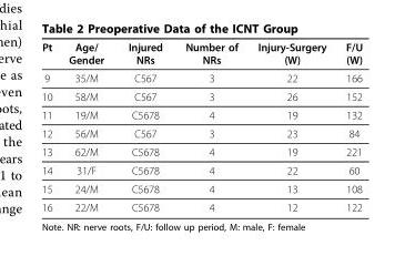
<table><thead><tr><td>Pt</td><td>Age/ Gender</td><td>Injured NRs</td><td>Number of NRs</td><td>Injury-Surgery (W)</td><td>F/U (W)</td></tr></thead><tbody><tr><td>9</td><td>35/M</td><td>C567</td><td>3</td><td>22</td><td>166</td></tr><tr><td>10</td><td>58/M</td><td>C567</td><td>3</td><td>26</td><td>152</td></tr><tr><td>11</td><td>19/M</td><td>C5678</td><td>4</td><td>19</td><td>132</td></tr><tr><td>12</td><td>56/M</td><td>C567</td><td>3</td><td>23</td><td>84</td></tr><tr><td>13</td><td>62/M</td><td>C5678</td><td>4</td><td>19</td><td>221</td></tr><tr><td>14</td><td>31/F</td><td>C5678</td><td>4</td><td>22</td><td>60</td></tr><tr><td>15</td><td>24/M</td><td>C5678</td><td>4</td><td>13</td><td>108</td></tr><tr><td>16</td><td>22/M</td><td>C5678</td><td>4</td><td>12</td><td>122</td></tr></tbody></table>